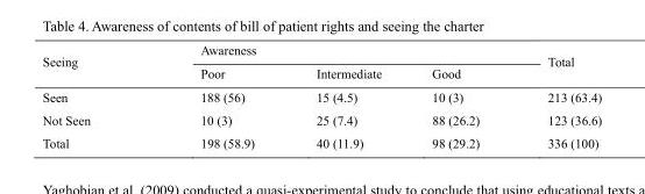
<table><thead><tr><td rowspan="2">Seeing</td><td colspan="3">Awareness</td><td rowspan="2">Total</td></tr><tr><td>Poor</td><td>Intermediate</td><td>Good</td></tr></thead><tbody><tr><td>Seen</td><td>188 (56)</td><td>15 (4.5)</td><td>10 (3)</td><td>213 (63.4)</td></tr><tr><td>Not Seen</td><td>10 (3)</td><td>25 (7.4)</td><td>88 (26.2)</td><td>123 (36.6)</td></tr><tr><td>Total</td><td>198 (58.9)</td><td>40 (11.9)</td><td>98 (29.2)</td><td>336 (100)</td></tr></tbody></table>